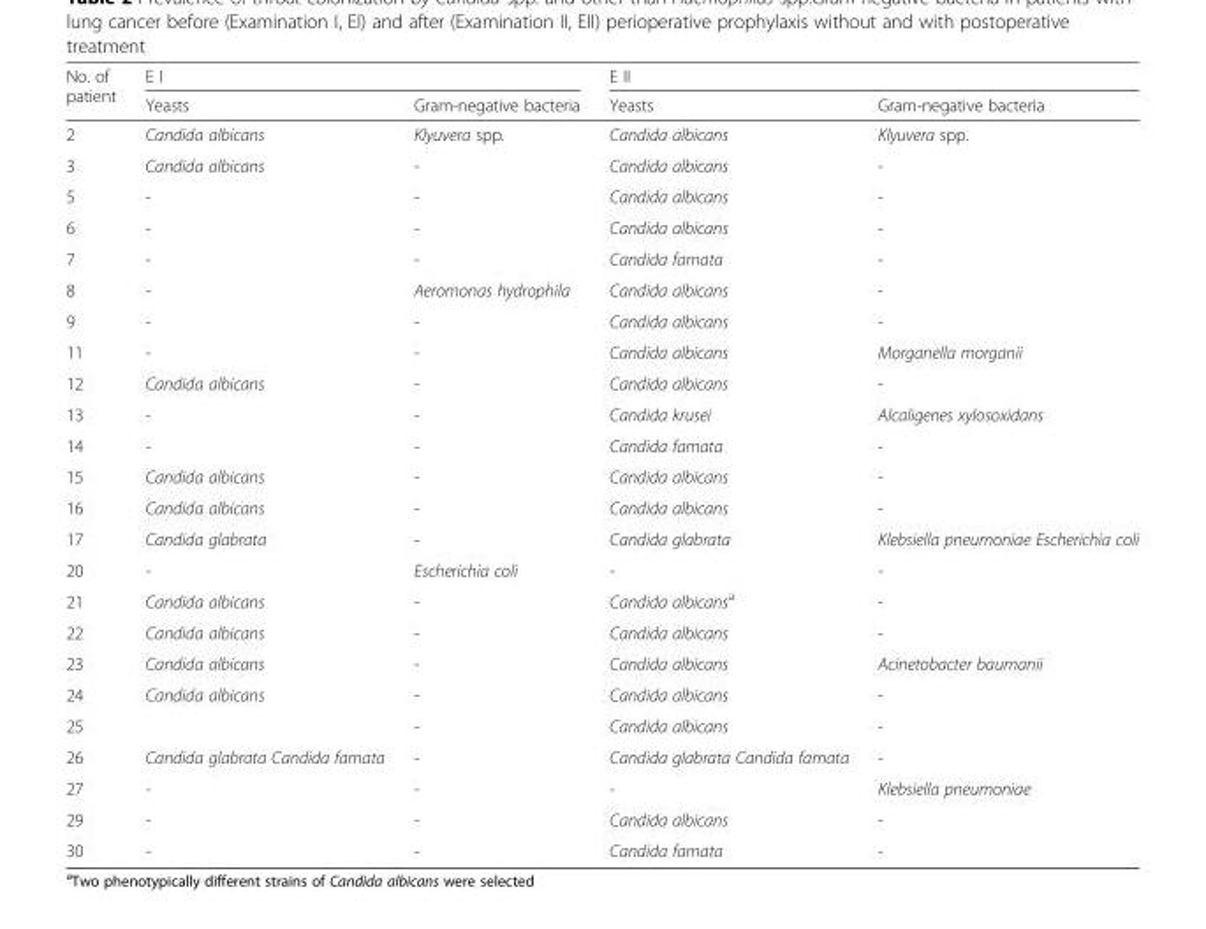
<table><thead><tr><td rowspan="2">No. of patient</td><td colspan="2">E I</td><td colspan="2">E II</td></tr><tr><td>Yeasts</td><td>Gram-negative bacteria</td><td>Yeasts</td><td>Gram-negative bacteria</td></tr></thead><tbody><tr><td>2</td><td>Candida albicans</td><td>Klyuvera spp.</td><td>Candida albicans</td><td>Klyuvera spp.</td></tr><tr><td>3</td><td>Candida albicans</td><td>-</td><td>Candida albicans</td><td>-</td></tr><tr><td>5</td><td>-</td><td>-</td><td>Candida albicans</td><td>-</td></tr><tr><td>6</td><td>-</td><td>-</td><td>Candida albicans</td><td>-</td></tr><tr><td>7</td><td>-</td><td>-</td><td>Candida famata</td><td>-</td></tr><tr><td>8</td><td>-</td><td>Aeromonas hydrophila</td><td>Candida albicans</td><td>-</td></tr><tr><td>9</td><td>-</td><td>-</td><td>Candida albicans</td><td>-</td></tr><tr><td>11</td><td>-</td><td>-</td><td>Candida albicans</td><td>Morganella morganii</td></tr><tr><td>12</td><td>Candida albicans</td><td>-</td><td>Candida albicans</td><td>-</td></tr><tr><td>13</td><td>-</td><td>-</td><td>Candida krusei</td><td>Alcaligenes xylosoxidans</td></tr><tr><td>14</td><td>-</td><td>-</td><td>Candida famata</td><td>-</td></tr><tr><td>15</td><td>Candida albicans</td><td>-</td><td>Candida albicans</td><td>-</td></tr><tr><td>16</td><td>Candida albicans</td><td>-</td><td>Candida albicans</td><td>-</td></tr><tr><td>17</td><td>Candida glabrata</td><td>-</td><td>Candida glabrata</td><td>Klebsiella pneumoniae Escherichia coli</td></tr><tr><td>20</td><td>-</td><td>Escherichia coli</td><td>-</td><td>-</td></tr><tr><td>21</td><td>Candida albicans</td><td>-</td><td>Candida albicans<sup>a</sup></td><td>-</td></tr><tr><td>22</td><td>Candida albicans</td><td>-</td><td>Candida albicans</td><td>-</td></tr><tr><td>23</td><td>Candida albicans</td><td>-</td><td>Candida albicans</td><td>Acinetobacter baumanii</td></tr><tr><td>24</td><td>Candida albicans</td><td>-</td><td>Candida albicans</td><td>-</td></tr><tr><td>25</td><td></td><td>-</td><td>Candida albicans</td><td>-</td></tr><tr><td>26</td><td>Candida glabrata Candida famata</td><td>-</td><td>Candida glabrata Candida famata</td><td>-</td></tr><tr><td>27</td><td>-</td><td>-</td><td>-</td><td>Klebsiella pneumoniae</td></tr><tr><td>29</td><td>-</td><td>-</td><td>Candida albicans</td><td>-</td></tr><tr><td>30</td><td>-</td><td>-</td><td>Candida famata</td><td>-</td></tr></tbody></table>